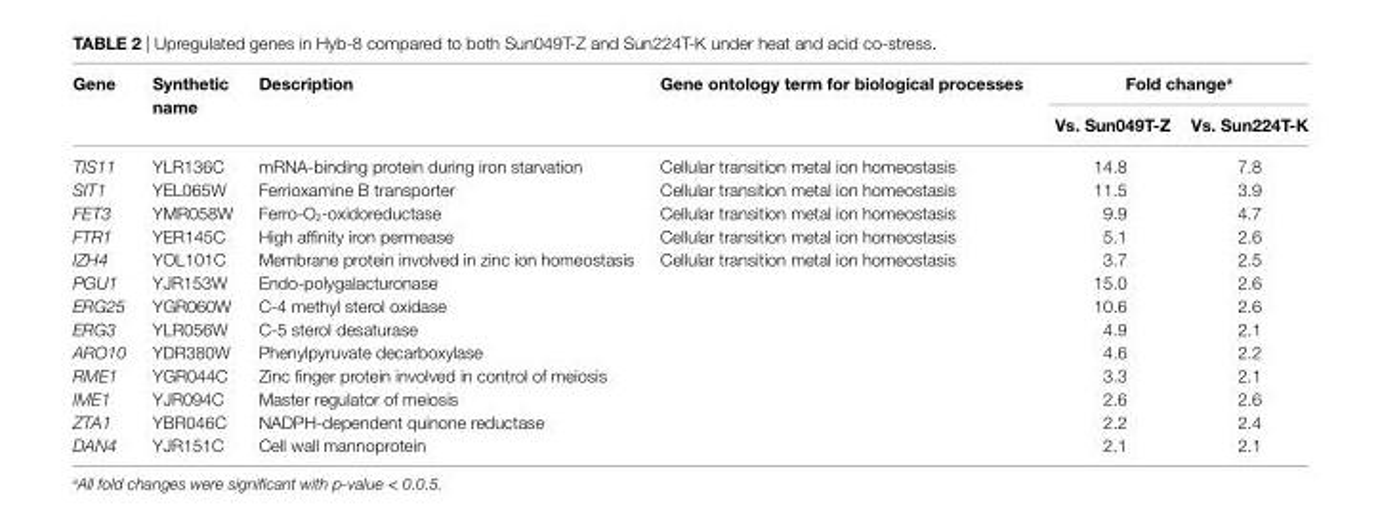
<table><thead><tr><td rowspan="2">gene</td><td rowspan="2">synthetic name</td><td rowspan="2">Description</td><td rowspan="2">gene ontology term for biological processes</td><td colspan="2">Fold change<sup>a</sup></td></tr><tr><td>Vs. sun049T-Z</td><td>Vs. sun224T-K</td></tr></thead><tbody><tr><td>TIS11</td><td>YLR136C</td><td>mRNA-binding protein during iron starvation</td><td>Cellular transition metal ion homeostasis</td><td>14.8</td><td>7.8</td></tr><tr><td>SIT1</td><td>YEL065W</td><td>Ferrioxamine B transporter</td><td>Cellular transition metal ion homeostasis</td><td>11.5</td><td>3.9</td></tr><tr><td>FET3</td><td>YMR058W</td><td>Ferro-O<sub>2</sub>-oxidoreductase</td><td>Cellular transition metal ion homeostasis</td><td>9.9</td><td>4.7</td></tr><tr><td>FTR1</td><td>YER145C</td><td>High affinity iron permease</td><td>Cellular transition metal ion homeostasis</td><td>5.1</td><td>2.6</td></tr><tr><td>IZH4</td><td>YOL101C</td><td>Membrane protein involved in zinc ion homeostasis</td><td>Cellular transition metal ion homeostasis</td><td>3.7</td><td>2.5</td></tr><tr><td>PGU1</td><td>YJR153W</td><td>Endo-polygalacturonase</td><td></td><td>15.0</td><td>2.6</td></tr><tr><td>ERG25</td><td>YGR060W</td><td>C-4 methyl sterol oxidase</td><td></td><td>10.6</td><td>2.6</td></tr><tr><td>ERG3</td><td>YLR056W</td><td>C-5 sterol desaturase</td><td></td><td>4.9</td><td>2.1</td></tr><tr><td>ARO10</td><td>YDR380W</td><td>Phenylpyruvate decarboxylase</td><td></td><td>4.6</td><td>2.2</td></tr><tr><td>RME1</td><td>YGR044C</td><td>Zinc finger protein involved in control of meiosis</td><td></td><td>3.3</td><td>2.1</td></tr><tr><td>IME1</td><td>YJR094C</td><td>Master regulator of meiosis</td><td></td><td>2.6</td><td>2.6</td></tr><tr><td>ZTA1</td><td>YBR046C</td><td>NADPH-dependent quinone reductase</td><td></td><td>2.2</td><td>2.4</td></tr><tr><td>DAN4</td><td>YJR151C</td><td>Cell wall mannoprotein</td><td></td><td>2.1</td><td>2.1</td></tr></tbody></table>